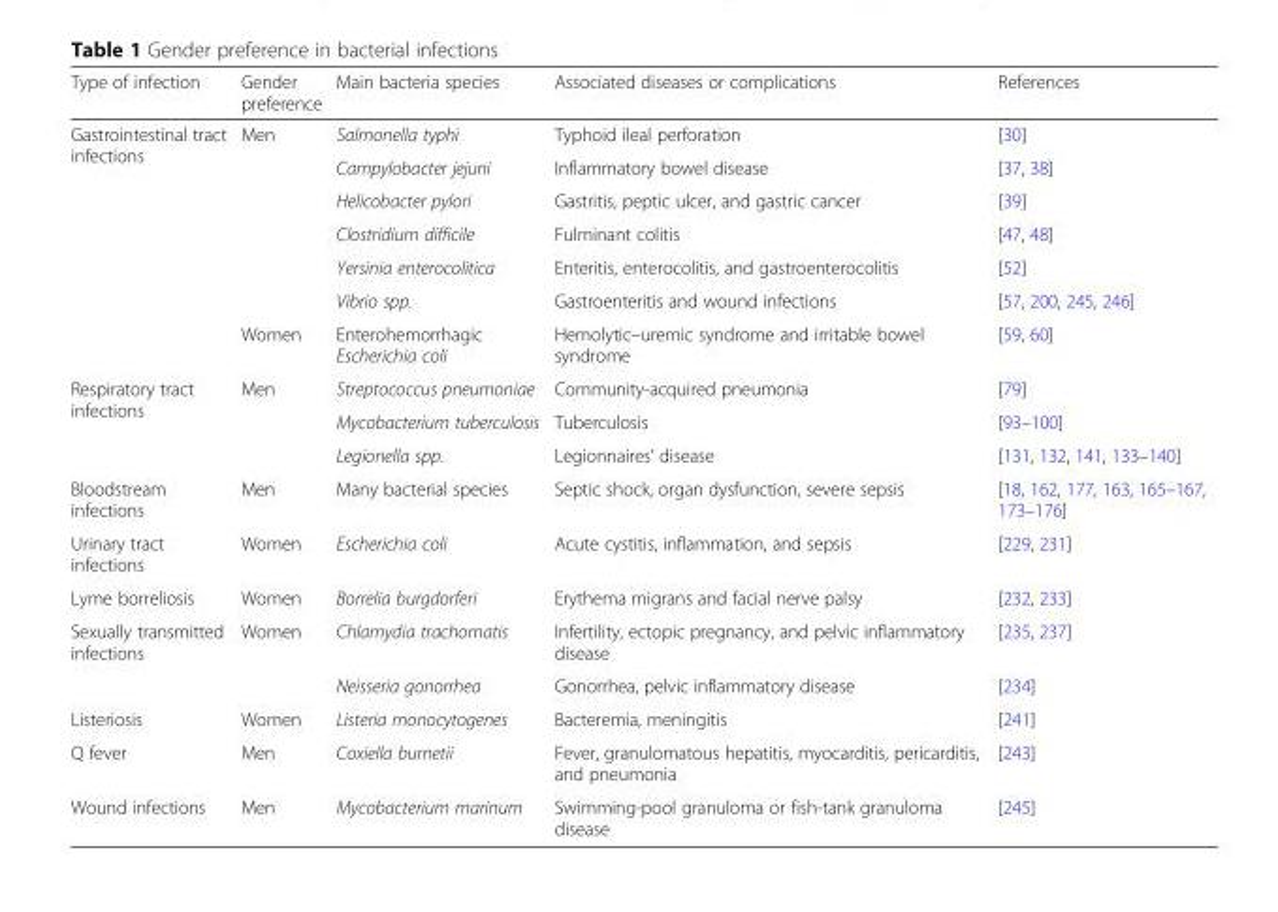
<table><thead><tr><td>Type of infection</td><td>Gender preference</td><td>Main bacteria species</td><td>Associated diseases or complications</td><td>References</td></tr></thead><tbody><tr><td rowspan="7">Gastrointestinal tract infections</td><td rowspan="6">Men</td><td>Salmonella typhi</td><td>Typhoid ileal perforation</td><td>[30]</td></tr><tr><td>Campylobacter jejuni</td><td>Inflammatory bowel disease</td><td>[37, 38]</td></tr><tr><td>Helicobacter pylori</td><td>Gastritis, peptic ulcer, and gastric cancer</td><td>[39]</td></tr><tr><td>Clostridium difficile</td><td>Fulminant colitis</td><td>[47, 48]</td></tr><tr><td>Yersinia enterocolitica</td><td>Enteritis, enterocolitis, and gastroenterocolitis</td><td>[52]</td></tr><tr><td>Vibrio spp.</td><td>Gastroenteritis and wound infections</td><td>[57, 200, 245, 246]</td></tr><tr><td>Women</td><td>Enterohemorrhagic Escherichia coli</td><td>Hemolytic–uremic syndrome and irritable bowel syndrome</td><td>[59, 60]</td></tr><tr><td rowspan="3">Respiratory tract infections</td><td rowspan="3">Men</td><td>Streptococcus pneumoniae</td><td>Community-acquired pneumonia</td><td>[79]</td></tr><tr><td>Mycobacterium tuberculosis</td><td>Tuberculosis</td><td>[93–100]</td></tr><tr><td>Legionella spp.</td><td>Legionnaires’ disease</td><td>[131, 132, 141, 133–140]</td></tr><tr><td>Bloodstream infections</td><td>Men</td><td>Many bacterial species</td><td>Septic shock, organ dysfunction, severe sepsis</td><td>[18, 162, 177, 163, 165–167, 173–176]</td></tr><tr><td>Urinary tract infections</td><td>Women</td><td>Escherichia coli</td><td>Acute cystitis, inflammation, and sepsis</td><td>[229, 231]</td></tr><tr><td>Lyme borreliosis</td><td>Women</td><td>Borrelia burgdorferi</td><td>Erythema migrans and facial nerve palsy</td><td>[232, 233]</td></tr><tr><td rowspan="2">Sexually transmitted infections</td><td rowspan="2">Women</td><td>Chlamydia trachomatis</td><td>Infertility, ectopic pregnancy, and pelvic inflammatory disease</td><td>[235, 237]</td></tr><tr><td>Neisseria gonorrhea</td><td>Gonorrhea, pelvic inflammatory disease</td><td>[234]</td></tr><tr><td>Listeriosis</td><td>Women</td><td>Listeria monocytogenes</td><td>Bacteremia, meningitis</td><td>[241]</td></tr><tr><td>Q fever</td><td>Men</td><td>Coxiella burnetii</td><td>Fever, granulomatous hepatitis, myocarditis, pericarditis, and pneumonia</td><td>[243]</td></tr><tr><td>Wound infections</td><td>Men</td><td>Mycobacterium marinum</td><td>Swimming-pool granuloma or fish-tank granuloma disease</td><td>[245]</td></tr></tbody></table>